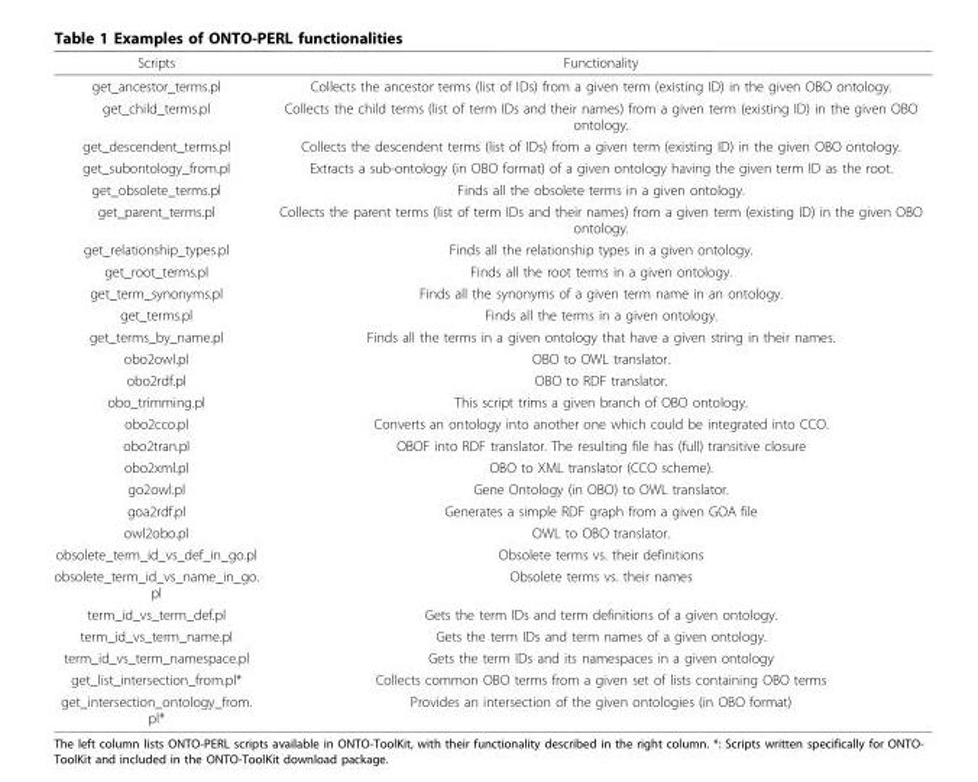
<table><thead><tr><td>Scripts</td><td>Functionality</td></tr></thead><tbody><tr><td>get_ancestor_terms.pl</td><td>Collects the ancestor terms (list of IDs) from a given term (existing ID) in the given OBO ontology.</td></tr><tr><td>get_child_terms.pl</td><td>Collects the child terms (list of term IDs and their names) from a given term (existing ID) in the given OBO ontology.</td></tr><tr><td>get_descendent_terms.pl</td><td>Collects the descendent terms (list of IDs) from a given term (existing ID) in the given OBO ontology.</td></tr><tr><td>get_subontology_from.pl</td><td>Extracts a sub-ontology (in OBO format) of a given ontology having the given term ID as the root.</td></tr><tr><td>get_obsolete_terms.pl</td><td>Finds all the obsolete terms in a given ontology.</td></tr><tr><td>get_parent_terms.pl</td><td>Collects the parent terms (list of term IDs and their names) from a given term (existing ID) in the given OBO ontology.</td></tr><tr><td>get_relationship_types.pl</td><td>Finds all the relationship types in a given ontology.</td></tr><tr><td>get_root_terms.pl</td><td>Finds all the root terms in a given ontology.</td></tr><tr><td>get_term_synonyms.pl</td><td>Finds all the synonyms of a given term name in an ontology.</td></tr><tr><td>get_terms.pl</td><td>Finds all the terms in a given ontology.</td></tr><tr><td>get_terms_by_name.pl</td><td>Finds all the terms in a given ontology that have a given string in their names.</td></tr><tr><td>obo2owl.pl</td><td>OBO to OWL translator.</td></tr><tr><td>obo2rdf.pl</td><td>OBO to RDF translator.</td></tr><tr><td>obo_trimming.pl</td><td>This script trims a given branch of OBO ontology.</td></tr><tr><td>obo2cco.pl</td><td>Converts an ontology into another one which could be integrated into CCO.</td></tr><tr><td>obo2tran.pl</td><td>OBOF into RDF translator. The resulting file has (full) transitive closure</td></tr><tr><td>obo2xml.pl</td><td>OBO to XML translator (CCO scheme).</td></tr><tr><td>go2owl.pl</td><td>Gene Ontology (in OBO) to OWL translator.</td></tr><tr><td>goa2rdf.pl</td><td>Generates a simple RDF graph from a given GOA file</td></tr><tr><td>owl2obo.pl</td><td>OWL to OBO translator.</td></tr><tr><td>obsolete_term_id_vs_def_in_go.pl</td><td>Obsolete terms vs. their definitions</td></tr><tr><td>obsolete_term_id_vs_name_in_go. pl</td><td>Obsolete terms vs. their names</td></tr><tr><td>term_id_vs_term_def.pl</td><td>Gets the term IDs and term definitions of a given ontology.</td></tr><tr><td>term_id_vs_term_name.pl</td><td>Gets the term IDs and term names of a given ontology.</td></tr><tr><td>term_id_vs_term_namespace.pl</td><td>Gets the term IDs and its namespaces in a given ontology</td></tr><tr><td>get_list_intersection_from.pl*</td><td>Collects common OBO terms from a given set of lists containing OBO terms</td></tr><tr><td>get_intersection_ontology_from. pl*</td><td>Provides an intersection of the given ontologies (in OBO format)</td></tr></tbody></table>